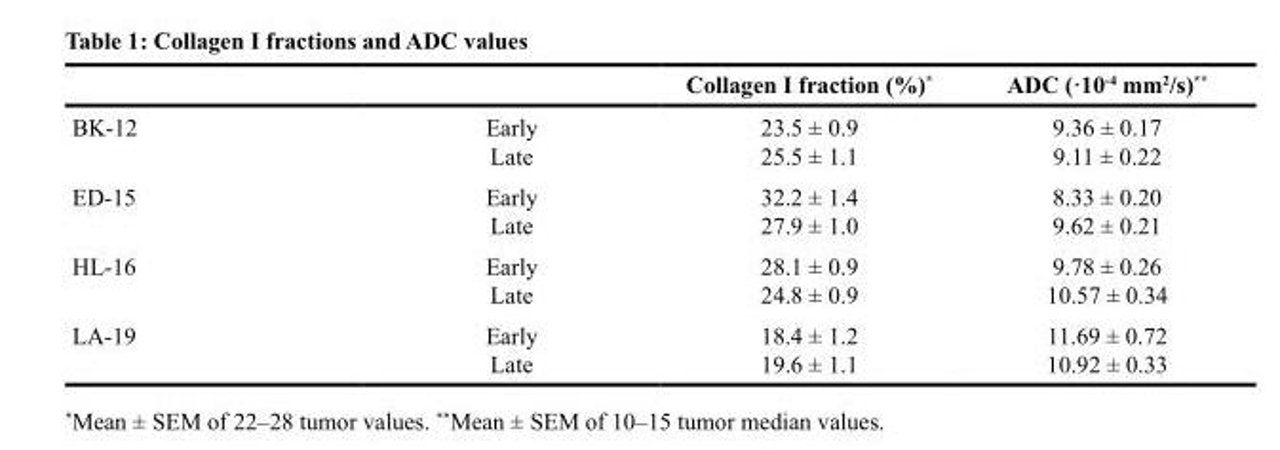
<table><thead><tr><td></td><td></td><td>Collagen I fraction (%)*</td><td>ADC (·10<sup>-4</sup> mm<sup>2</sup>/s)**</td></tr></thead><tbody><tr><td>BK-12</td><td>Early Late</td><td>23.5 ± 0.9 25.5 ± 1.1</td><td>9.36 ± 0.17 9.11 ± 0.22</td></tr><tr><td>ED-15</td><td>Early Late</td><td>32.2 ± 1.4 27.9 ± 1.0</td><td>8.33 ± 0.20 9.62 ± 0.21</td></tr><tr><td>HL-16</td><td>Early Late</td><td>28.1 ± 0.9 24.8 ± 0.9</td><td>9.78 ± 0.26 10.57 ± 0.34</td></tr><tr><td>LA-19</td><td>Early Late</td><td>18.4 ± 1.2 19.6 ± 1.1</td><td>11.69 ± 0.72 10.92 ± 0.33</td></tr></tbody></table>